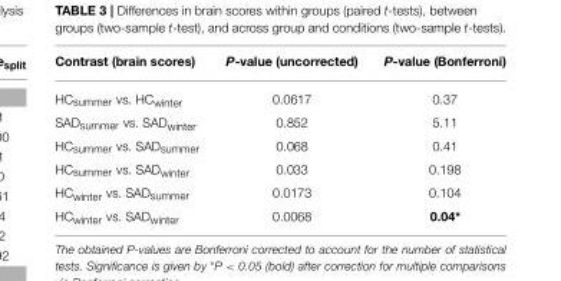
<table><thead><tr><td>Contrast (brain scores)</td><td>P-value (uncorrected)</td><td>P-value (Bonferroni)</td></tr></thead><tbody><tr><td>HC<sub>summer</sub> vs. HC<sub>winter</sub></td><td>0.0617</td><td>0.37</td></tr><tr><td>SAD<sub>summer</sub> vs. SAD<sub>winter</sub></td><td>0.852</td><td>5.11</td></tr><tr><td>HC<sub>summer</sub> vs. SAD<sub>summer</sub></td><td>0.068</td><td>0.41</td></tr><tr><td>HC<sub>summer</sub> vs. SAD<sub>winter</sub></td><td>0.033</td><td>0.198</td></tr><tr><td>HC<sub>winter</sub> vs. SAD<sub>summer</sub></td><td>0.0173</td><td>0.104</td></tr><tr><td>HC<sub>winter</sub> vs. SAD<sub>winter</sub></td><td>0.0068</td><td>0.04*</td></tr></tbody></table>